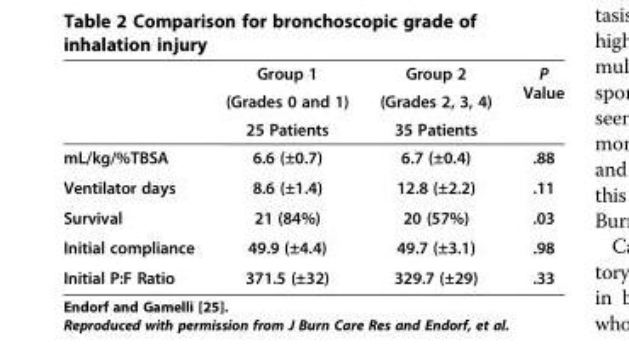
<table><thead><tr><td rowspan="3"></td><td rowspan="3">Group 1 (Grades 0 and 1) 25 Patients</td><td rowspan="3">Group 2 (Grades 2, 3, 4) 35 Patients</td><td rowspan="3">P Value</td></tr><tr></tr><tr></tr></thead><tbody><tr><td>mL/kg/%TBSA</td><td>6.6 (±0.7)</td><td>6.7 (±0.4)</td><td>.88</td></tr><tr><td>Ventilator days</td><td>8.6 (±1.4)</td><td>12.8 (±2.2)</td><td>.11</td></tr><tr><td>Survival</td><td>21 (84%)</td><td>20 (57%)</td><td>.03</td></tr><tr><td>Initial compliance</td><td>49.9 (±4.4)</td><td>49.7 (±3.1)</td><td>.98</td></tr><tr><td>Initial P:F Ratio</td><td>371.5 (±32)</td><td>329.7 (±29)</td><td>.33</td></tr></tbody></table>